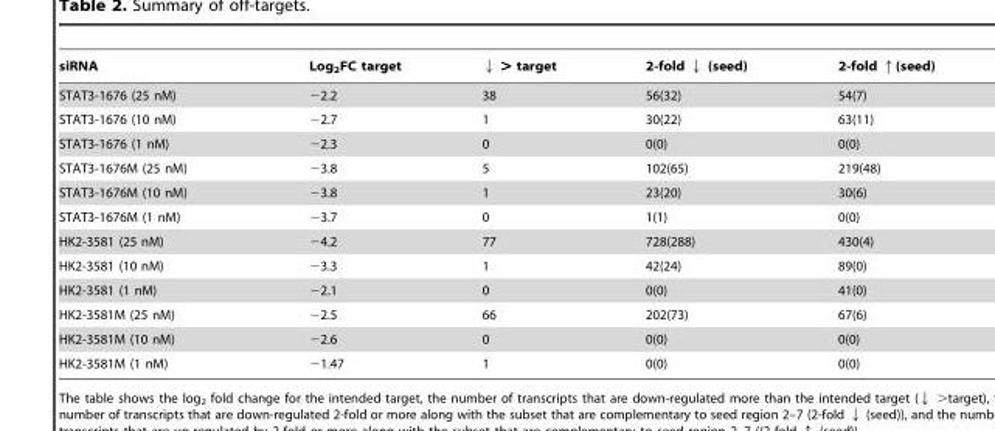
<table><thead><tr><td>siRNA</td><td>Log<sub>2</sub>FC target</td><td>↓ &gt; target</td><td>2-fold ↓ (seed)</td><td>2-fold ↑(seed)</td></tr></thead><tbody><tr><td>STAT3-1676 (25 nM)</td><td>−2.2</td><td>38</td><td>56(32)</td><td>54(7)</td></tr><tr><td>STAT3-1676 (10 nM)</td><td>−2.7</td><td>1</td><td>30(22)</td><td>63(11)</td></tr><tr><td>STAT3-1676 (1 nM)</td><td>−2.3</td><td>0</td><td>0(0)</td><td>0(0)</td></tr><tr><td>STAT3-1676M (25 nM)</td><td>−3.8</td><td>5</td><td>102(65)</td><td>219(48)</td></tr><tr><td>STAT3-1676M (10 nM)</td><td>−3.8</td><td>1</td><td>23(20)</td><td>30(6)</td></tr><tr><td>STAT3-1676M (1 nM)</td><td>−3.7</td><td>0</td><td>1(1)</td><td>0(0)</td></tr><tr><td>HK2-3581 (25 nM)</td><td>−4.2</td><td>77</td><td>728(288)</td><td>430(4)</td></tr><tr><td>HK2-3581 (10 nM)</td><td>−3.3</td><td>1</td><td>42(24)</td><td>89(0)</td></tr><tr><td>HK2-3581 (1 nM)</td><td>−2.1</td><td>0</td><td>0(0)</td><td>41(0)</td></tr><tr><td>HK2-3581M (25 nM)</td><td>−2.5</td><td>66</td><td>202(73)</td><td>67(6)</td></tr><tr><td>HK2-3581M (10 nM)</td><td>−2.6</td><td>0</td><td>0(0)</td><td>0(0)</td></tr><tr><td>HK2-3581M (1 nM)</td><td>−1.47</td><td>1</td><td>0(0)</td><td>0(0)</td></tr></tbody></table>